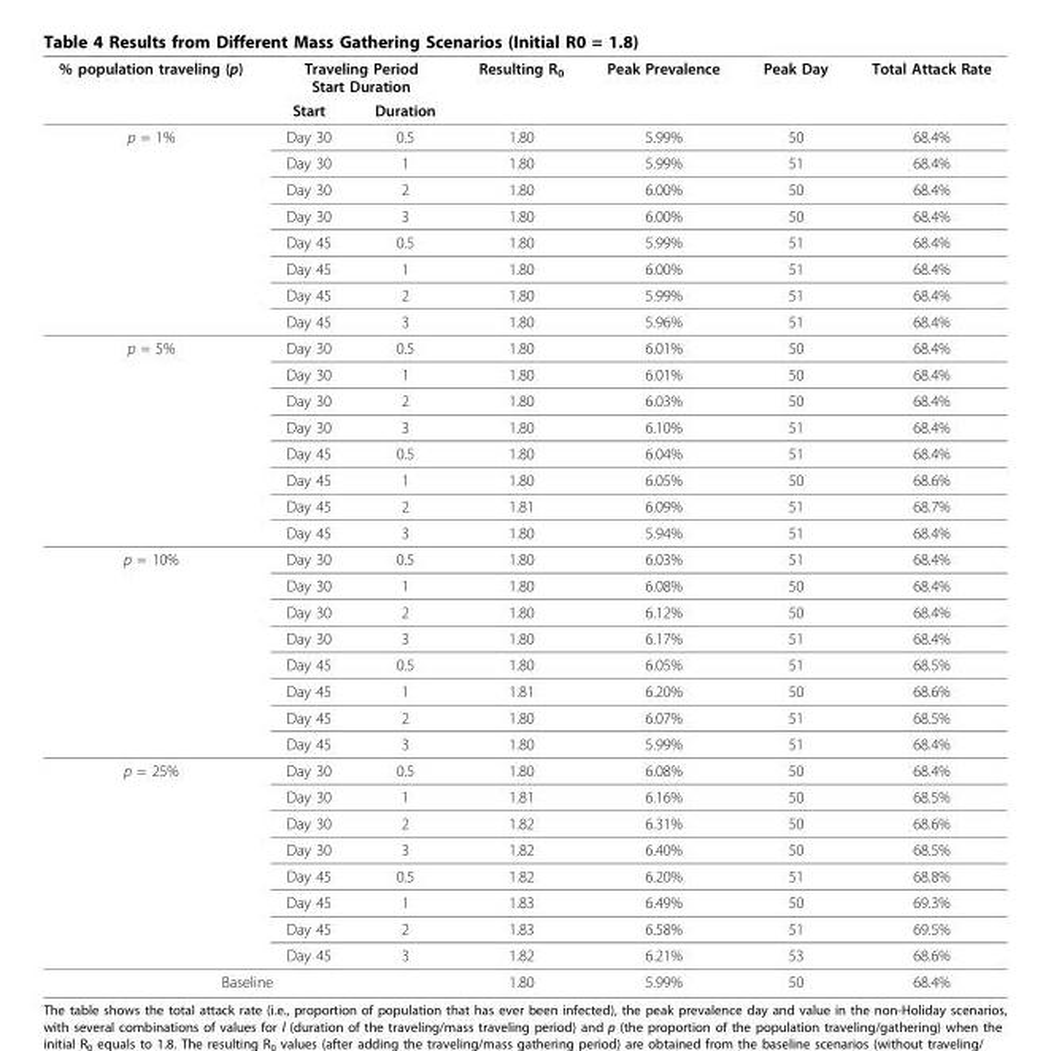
<table><thead><tr><td rowspan="2">% population traveling (p)</td><td colspan="2">Traveling Period Start Duration</td><td rowspan="2">Resulting R<sub>0</sub></td><td rowspan="2">Peak Prevalence</td><td rowspan="2">Peak Day</td><td rowspan="2">Total Attack Rate</td></tr><tr><td>Start</td><td>Duration</td></tr></thead><tbody><tr><td rowspan="8">p = 1%</td><td>Day 30</td><td>0.5</td><td>1.80</td><td>5.99%</td><td>50</td><td>68.4%</td></tr><tr><td>Day 30</td><td>1</td><td>1.80</td><td>5.99%</td><td>51</td><td>68.4%</td></tr><tr><td>Day 30</td><td>2</td><td>1.80</td><td>6.00%</td><td>50</td><td>68.4%</td></tr><tr><td>Day 30</td><td>3</td><td>1.80</td><td>6.00%</td><td>50</td><td>68.4%</td></tr><tr><td>Day 45</td><td>0.5</td><td>1.80</td><td>5.99%</td><td>51</td><td>68.4%</td></tr><tr><td>Day 45</td><td>1</td><td>1.80</td><td>6.00%</td><td>51</td><td>68.4%</td></tr><tr><td>Day 45</td><td>2</td><td>1.80</td><td>5.99%</td><td>51</td><td>68.4%</td></tr><tr><td>Day 45</td><td>3</td><td>1.80</td><td>5.96%</td><td>51</td><td>68.4%</td></tr><tr><td rowspan="8">p = 5%</td><td>Day 30</td><td>0.5</td><td>1.80</td><td>6.01%</td><td>50</td><td>68.4%</td></tr><tr><td>Day 30</td><td>1</td><td>1.80</td><td>6.01%</td><td>50</td><td>68.4%</td></tr><tr><td>Day 30</td><td>2</td><td>1.80</td><td>6.03%</td><td>50</td><td>68.4%</td></tr><tr><td>Day 30</td><td>3</td><td>1.80</td><td>6.10%</td><td>51</td><td>68.4%</td></tr><tr><td>Day 45</td><td>0.5</td><td>1.80</td><td>6.04%</td><td>51</td><td>68.4%</td></tr><tr><td>Day 45</td><td>1</td><td>1.80</td><td>6.05%</td><td>50</td><td>68.6%</td></tr><tr><td>Day 45</td><td>2</td><td>1.81</td><td>6.09%</td><td>51</td><td>68.7%</td></tr><tr><td>Day 45</td><td>3</td><td>1.80</td><td>5.94%</td><td>51</td><td>68.4%</td></tr><tr><td rowspan="8">p = 10%</td><td>Day 30</td><td>0.5</td><td>1.80</td><td>6.03%</td><td>51</td><td>68.4%</td></tr><tr><td>Day 30</td><td>1</td><td>1.80</td><td>6.08%</td><td>50</td><td>68.4%</td></tr><tr><td>Day 30</td><td>2</td><td>1.80</td><td>6.12%</td><td>50</td><td>68.4%</td></tr><tr><td>Day 30</td><td>3</td><td>1.80</td><td>6.17%</td><td>51</td><td>68.4%</td></tr><tr><td>Day 45</td><td>0.5</td><td>1.80</td><td>6.05%</td><td>51</td><td>68.5%</td></tr><tr><td>Day 45</td><td>1</td><td>1.81</td><td>6.20%</td><td>50</td><td>68.6%</td></tr><tr><td>Day 45</td><td>2</td><td>1.80</td><td>6.07%</td><td>51</td><td>68.5%</td></tr><tr><td>Day 45</td><td>3</td><td>1.80</td><td>5.99%</td><td>51</td><td>68.4%</td></tr><tr><td rowspan="8">p = 25%</td><td>Day 30</td><td>0.5</td><td>1.80</td><td>6.08%</td><td>50</td><td>68.4%</td></tr><tr><td>Day 30</td><td>1</td><td>1.81</td><td>6.16%</td><td>50</td><td>68.5%</td></tr><tr><td>Day 30</td><td>2</td><td>1.82</td><td>6.31%</td><td>50</td><td>68.6%</td></tr><tr><td>Day 30</td><td>3</td><td>1.82</td><td>6.40%</td><td>50</td><td>68.5%</td></tr><tr><td>Day 45</td><td>0.5</td><td>1.82</td><td>6.20%</td><td>51</td><td>68.8%</td></tr><tr><td>Day 45</td><td>1</td><td>1.83</td><td>6.49%</td><td>50</td><td>69.3%</td></tr><tr><td>Day 45</td><td>2</td><td>1.83</td><td>6.58%</td><td>51</td><td>69.5%</td></tr><tr><td>Day 45</td><td>3</td><td>1.82</td><td>6.21%</td><td>53</td><td>68.6%</td></tr><tr><td colspan="3">Baseline</td><td>1.80</td><td>5.99%</td><td>50</td><td>68.4%</td></tr></tbody></table>